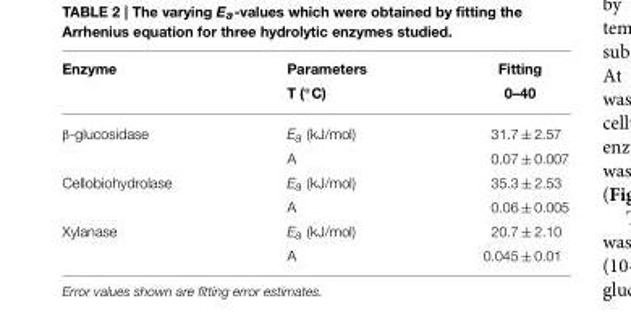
<table><thead><tr><td>Enzyme</td><td>Parameters T (◦C)</td><td>Fitting 0–40</td></tr></thead><tbody><tr><td rowspan="2">β-glucosidase</td><td>Ea (kJ/mol)</td><td>31.7 ± 2.57</td></tr><tr><td>A</td><td>0.07 ± 0.007</td></tr><tr><td rowspan="2">Cellobiohydrolase</td><td>Ea (kJ/mol)</td><td>35.3 ± 2.53</td></tr><tr><td>A</td><td>0.06 ± 0.005</td></tr><tr><td rowspan="2">Xylanase</td><td>Ea (kJ/mol)</td><td>20.7 ± 2.10</td></tr><tr><td>A</td><td>0.045 ± 0.01</td></tr></tbody></table>